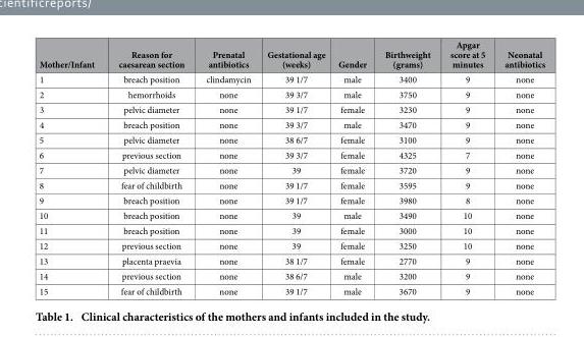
<table><thead><tr><td>Mother/Infant</td><td>Reason for caesarean section</td><td>Prenatal antibiotics</td><td>Gestational age (weeks)</td><td>Gender</td><td>Birthweight (grams)</td><td>Apgar score at 5 minutes</td><td>Neonatal antibiotics</td></tr></thead><tbody><tr><td>1</td><td>breach position</td><td>clindamycin</td><td>39 1/7</td><td>male</td><td>3400</td><td>9</td><td>none</td></tr><tr><td>2</td><td>hemorrhoids</td><td>none</td><td>39 3/7</td><td>male</td><td>3750</td><td>9</td><td>none</td></tr><tr><td>3</td><td>pelvic diameter</td><td>none</td><td>39 1/7</td><td>female</td><td>3230</td><td>9</td><td>none</td></tr><tr><td>4</td><td>breach position</td><td>none</td><td>39 3/7</td><td>male</td><td>3470</td><td>9</td><td>none</td></tr><tr><td>5</td><td>pelvic diameter</td><td>none</td><td>38 6/7</td><td>female</td><td>3100</td><td>9</td><td>none</td></tr><tr><td>6</td><td>previous section</td><td>none</td><td>39 3/7</td><td>female</td><td>4325</td><td>7</td><td>none</td></tr><tr><td>7</td><td>pelvic diameter</td><td>none</td><td>39</td><td>female</td><td>3720</td><td>9</td><td>none</td></tr><tr><td>8</td><td>fear of childbirth</td><td>none</td><td>39 1/7</td><td>female</td><td>3595</td><td>9</td><td>none</td></tr><tr><td>9</td><td>breach position</td><td>none</td><td>39 1/7</td><td>female</td><td>3980</td><td>8</td><td>none</td></tr><tr><td>10</td><td>breach position</td><td>none</td><td>39</td><td>male</td><td>3490</td><td>10</td><td>none</td></tr><tr><td>11</td><td>breach position</td><td>none</td><td>39</td><td>female</td><td>3000</td><td>10</td><td>none</td></tr><tr><td>12</td><td>previous section</td><td>none</td><td>39</td><td>female</td><td>3250</td><td>10</td><td>none</td></tr><tr><td>13</td><td>placenta praevia</td><td>none</td><td>38 1/7</td><td>female</td><td>2770</td><td>9</td><td>none</td></tr><tr><td>14</td><td>previous section</td><td>none</td><td>38 6/7</td><td>male</td><td>3200</td><td>9</td><td>none</td></tr><tr><td>15</td><td>fear of childbirth</td><td>none</td><td>39 1/7</td><td>male</td><td>3670</td><td>9</td><td>none</td></tr></tbody></table>